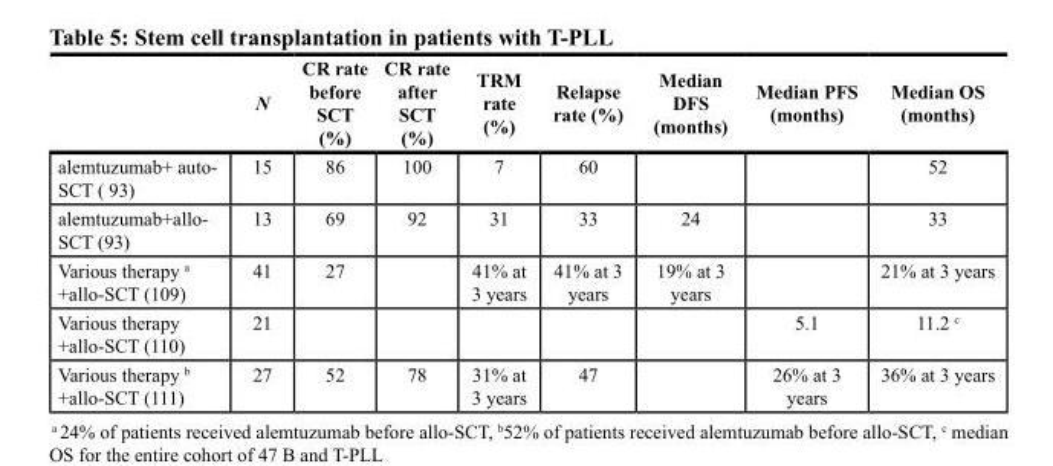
<table><thead><tr><td></td><td>N</td><td>CR rate before SCT (%)</td><td>CR rate after SCT (%)</td><td>TRM rate (%)</td><td>Relapse rate (%)</td><td>Median DFS (months)</td><td>Median PFS (months)</td><td>Median OS (months)</td></tr></thead><tbody><tr><td>alemtuzumab+ auto- SCT ( 93)</td><td>15</td><td>86</td><td>100</td><td>7</td><td>60</td><td></td><td></td><td>52</td></tr><tr><td>alemtuzumab+allo- SCT (93)</td><td>13</td><td>69</td><td>92</td><td>31</td><td>33</td><td>24</td><td></td><td>33</td></tr><tr><td>Various therapy <sup>a</sup> +allo-SCT (109)</td><td>41</td><td>27</td><td></td><td>41% at 3 years</td><td>41% at 3 years</td><td>19% at 3 years</td><td></td><td>21% at 3 years</td></tr><tr><td>Various therapy +allo-SCT (110)</td><td>21</td><td></td><td></td><td></td><td></td><td></td><td>5.1</td><td>11.2 <sup>c</sup></td></tr><tr><td>Various therapy <sup>b</sup> +allo-SCT (111)</td><td>27</td><td>52</td><td>78</td><td>31% at 3 years</td><td>47</td><td></td><td>26% at 3 years</td><td>36% at 3 years</td></tr></tbody></table>